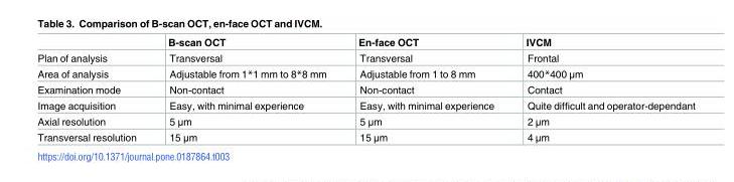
<table><thead><tr><td></td><td>B-scan OCT</td><td>En-face OCT</td><td>IVCM</td></tr></thead><tbody><tr><td>Plan of analysis</td><td>Transversal</td><td>Transversal</td><td>Frontal</td></tr><tr><td>Area of analysis</td><td>Adjustable from 1*1 mm to 8*8 mm</td><td>Adjustable from 1 to 8 mm</td><td>400*400 μm</td></tr><tr><td>Examination mode</td><td>Non-contact</td><td>Non-contact</td><td>Contact</td></tr><tr><td>Image acquisition</td><td>Easy, with minimal experience</td><td>Easy, with minimal experience</td><td>Quite difficult and operator-dependant</td></tr><tr><td>Axial resolution</td><td>5 μm</td><td>5 μm</td><td>2 μm</td></tr><tr><td>Transversal resolution</td><td>15 μm</td><td>15 μm</td><td>4 μm</td></tr></tbody></table>